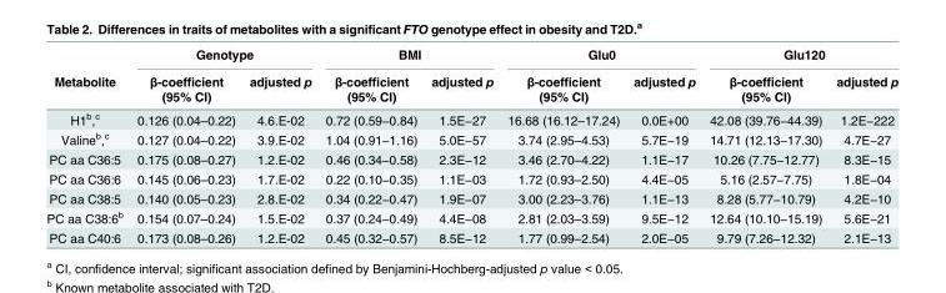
<table><thead><tr><td rowspan="2">Metabolite</td><td colspan="2">Genotype</td><td colspan="2">BMI</td><td colspan="2">Glu0</td><td colspan="2">Glu120</td></tr><tr><td>β-coefficient (95% CI)</td><td>adjusted p</td><td>β-coefficient (95% CI)</td><td>adjusted p</td><td>β-coefficient (95% CI)</td><td>adjusted p</td><td>β-coefficient (95% CI)</td><td>adjusted p</td></tr></thead><tbody><tr><td>H1<sup>b</sup>,<sup>c</sup></td><td>0.126 (0.04–0.22)</td><td>4.6.E-02</td><td>0.72 (0.59−0.84)</td><td>1.5E−27</td><td>16.68 (16.12–17.24)</td><td>0.0E+00</td><td>42.08 (39.76−44.39)</td><td>1.2E−222</td></tr><tr><td>Valine<sup>b</sup>,<sup>c</sup></td><td>0.127 (0.04–0.22)</td><td>3.9.E-02</td><td>1.04 (0.91−1.16)</td><td>5.0E−57</td><td>3.74 (2.95–4.53)</td><td>5.7E−19</td><td>14.71 (12.13−17.30)</td><td>4.7E−27</td></tr><tr><td>PC aa C36:5</td><td>0.175 (0.08–0.27)</td><td>1.2.E-02</td><td>0.46 (0.34−0.58)</td><td>2.3E−12</td><td>3.46 (2.70–4.22)</td><td>1.1E−17</td><td>10.26 (7.75−12.77)</td><td>8.3E−15</td></tr><tr><td>PC aa C36:6</td><td>0.145 (0.06–0.23)</td><td>1.7.E-02</td><td>0.22 (0.10−0.35)</td><td>1.1E−03</td><td>1.72 (0.93–2.50)</td><td>4.4E−05</td><td>5.16 (2.57−7.75)</td><td>1.8E−04</td></tr><tr><td>PC aa C38:5</td><td>0.140 (0.05–0.23)</td><td>2.8.E-02</td><td>0.34 (0.22−0.47)</td><td>1.9E−07</td><td>3.00 (2.23–3.76)</td><td>1.1E−13</td><td>8.28 (5.77−10.79)</td><td>4.2E−10</td></tr><tr><td>PC aa C38:6<sup>b</sup></td><td>0.154 (0.07–0.24)</td><td>1.5.E-02</td><td>0.37 (0.24−0.49)</td><td>4.4E−08</td><td>2.81 (2.03–3.59)</td><td>9.5E−12</td><td>12.64 (10.10−15.19)</td><td>5.6E−21</td></tr><tr><td>PC aa C40:6</td><td>0.173 (0.08–0.26)</td><td>1.2.E-02</td><td>0.45 (0.32−0.57)</td><td>8.5E−12</td><td>1.77 (0.99–2.54)</td><td>2.0E−05</td><td>9.79 (7.26−12.32)</td><td>2.1E−13</td></tr></tbody></table>